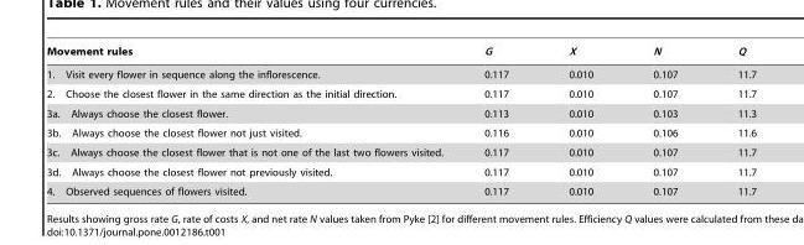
<table><thead><tr><td>Movement rules</td><td>G</td><td>X</td><td>N</td><td>Q</td></tr></thead><tbody><tr><td>1. Visit every flower in sequence along the inflorescence.</td><td>0.117</td><td>0.010</td><td>0.107</td><td>11.7</td></tr><tr><td>2. Choose the closest flower in the same direction as the initial direction.</td><td>0.117</td><td>0.010</td><td>0.107</td><td>11.7</td></tr><tr><td>3a. Always choose the closest flower.</td><td>0.113</td><td>0.010</td><td>0.103</td><td>11.3</td></tr><tr><td>3b. Always choose the closest flower not just visited.</td><td>0.116</td><td>0.010</td><td>0.106</td><td>11.6</td></tr><tr><td>3c. Always choose the closest flower that is not one of the last two flowers visited.</td><td>0.117</td><td>0.010</td><td>0.107</td><td>11.7</td></tr><tr><td>3d. Always choose the closest flower not previously visited.</td><td>0.117</td><td>0.010</td><td>0.107</td><td>11.7</td></tr><tr><td>4. Observed sequences of flowers visited.</td><td>0.117</td><td>0.010</td><td>0.107</td><td>11.7</td></tr></tbody></table>